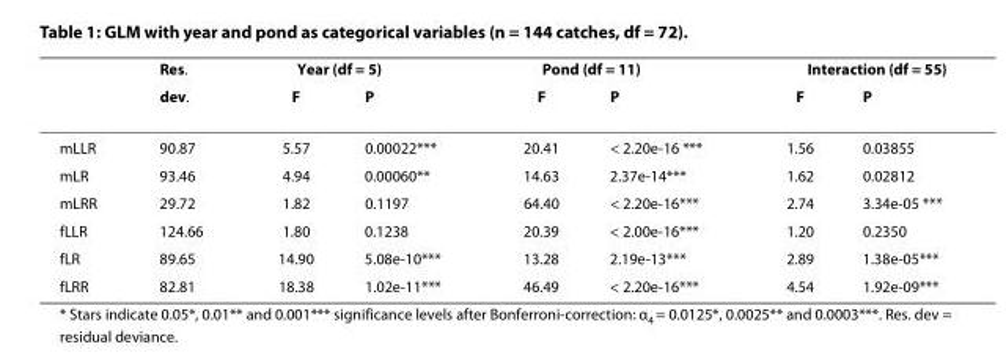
<table><thead><tr><td rowspan="2"></td><td rowspan="2">Res. dev.</td><td colspan="2">Year (df = 5)</td><td colspan="2">Pond (df = 11)</td><td colspan="2">Interaction (df = 55)</td></tr><tr><td>F</td><td>P</td><td>F</td><td>P</td><td>F</td><td>P</td></tr></thead><tbody><tr><td>mLLR</td><td>90.87</td><td>5.57</td><td>0.00022***</td><td>20.41</td><td>&lt; 2.20e-16 ***</td><td>1.56</td><td>0.03855</td></tr><tr><td>mLR</td><td>93.46</td><td>4.94</td><td>0.00060**</td><td>14.63</td><td>2.37e-14***</td><td>1.62</td><td>0.02812</td></tr><tr><td>mLRR</td><td>29.72</td><td>1.82</td><td>0.1197</td><td>64.40</td><td>&lt; 2.20e-16***</td><td>2.74</td><td>3.34e-05 ***</td></tr><tr><td>fLLR</td><td>124.66</td><td>1.80</td><td>0.1238</td><td>20.39</td><td>&lt; 2.00e-16***</td><td>1.20</td><td>0.2350</td></tr><tr><td>fLR</td><td>89.65</td><td>14.90</td><td>5.08e-10***</td><td>13.28</td><td>2.19e-13***</td><td>2.89</td><td>1.38e-05***</td></tr><tr><td>fLRR</td><td>82.81</td><td>18.38</td><td>1.02e-11***</td><td>46.49</td><td>&lt; 2.20e-16***</td><td>4.54</td><td>1.92e-09***</td></tr></tbody></table>